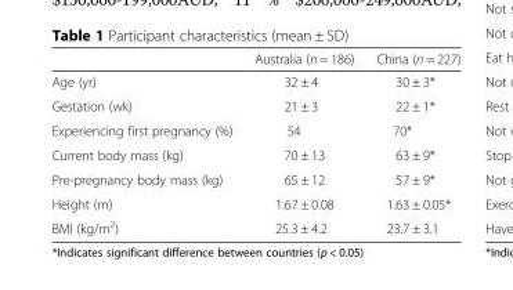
<table><thead><tr><td></td><td>Australia (n = 186)</td><td>China (n = 227)</td></tr></thead><tbody><tr><td>Age (yr)</td><td>32 ± 4</td><td>30 ± 3*</td></tr><tr><td>Gestation (wk)</td><td>21 ± 3</td><td>22 ± 1*</td></tr><tr><td>Experiencing first pregnancy (%)</td><td>54</td><td>70*</td></tr><tr><td>Current body mass (kg)</td><td>70 ± 13</td><td>63 ± 9*</td></tr><tr><td>Pre-pregnancy body mass (kg)</td><td>65 ± 12</td><td>57 ± 9*</td></tr><tr><td>Height (m)</td><td>1.67 ± 0.08</td><td>1.63 ± 0.05*</td></tr><tr><td>BMI (kg/m<sup>2</sup>)</td><td>25.3 ± 4.2</td><td>23.7 ± 3.1</td></tr></tbody></table>